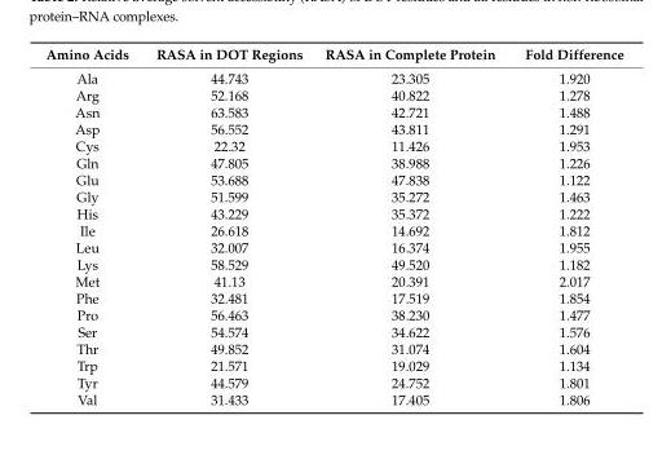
<table><thead><tr><td>Amino Acids</td><td>RASA in DOT Regions</td><td>RASA in Complete Protein</td><td>Fold Difference</td></tr></thead><tbody><tr><td>Ala</td><td>44.743</td><td>23.305</td><td>1.920</td></tr><tr><td>Arg</td><td>52.168</td><td>40.822</td><td>1.278</td></tr><tr><td>Asn</td><td>63.583</td><td>42.721</td><td>1.488</td></tr><tr><td>Asp</td><td>56.552</td><td>43.811</td><td>1.291</td></tr><tr><td>Cys</td><td>22.32</td><td>11.426</td><td>1.953</td></tr><tr><td>Gln</td><td>47.805</td><td>38.988</td><td>1.226</td></tr><tr><td>Glu</td><td>53.688</td><td>47.838</td><td>1.122</td></tr><tr><td>Gly</td><td>51.599</td><td>35.272</td><td>1.463</td></tr><tr><td>His</td><td>43.229</td><td>35.372</td><td>1.222</td></tr><tr><td>Ile</td><td>26.618</td><td>14.692</td><td>1.812</td></tr><tr><td>Leu</td><td>32.007</td><td>16.374</td><td>1.955</td></tr><tr><td>Lys</td><td>58.529</td><td>49.520</td><td>1.182</td></tr><tr><td>Met</td><td>41.13</td><td>20.391</td><td>2.017</td></tr><tr><td>Phe</td><td>32.481</td><td>17.519</td><td>1.854</td></tr><tr><td>Pro</td><td>56.463</td><td>38.230</td><td>1.477</td></tr><tr><td>Ser</td><td>54.574</td><td>34.622</td><td>1.576</td></tr><tr><td>Thr</td><td>49.852</td><td>31.074</td><td>1.604</td></tr><tr><td>Trp</td><td>21.571</td><td>19.029</td><td>1.134</td></tr><tr><td>Tyr</td><td>44.579</td><td>24.752</td><td>1.801</td></tr><tr><td>Val</td><td>31.433</td><td>17.405</td><td>1.806</td></tr></tbody></table>